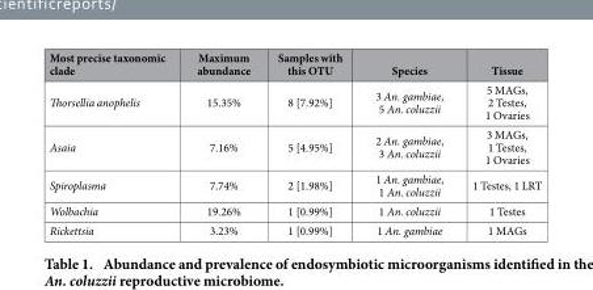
<table><thead><tr><td>Most precise taxonomic clade</td><td>Maximum abundance</td><td>Samples with this OTU</td><td>Species</td><td>Tissue</td></tr></thead><tbody><tr><td>Thorsellia anophelis</td><td>15.35%</td><td>8 [7.92%]</td><td>3 An. gambiae, 5 An. coluzzii</td><td>5 MAGs, 2 Testes, 1 Ovaries</td></tr><tr><td>Asaia</td><td>7.16%</td><td>5 [4.95%]</td><td>2 An. gambiae, 3 An. coluzzii</td><td>3 MAGs, 1 Testes, 1 Ovaries</td></tr><tr><td>Spiroplasma</td><td>7.74%</td><td>2 [1.98%]</td><td>1 An. gambiae, 1 An. coluzzii</td><td>1 Testes, 1 LRT</td></tr><tr><td>Wolbachia</td><td>19.26%</td><td>1 [0.99%]</td><td>1 An. coluzzii</td><td>1 Testes</td></tr><tr><td>Rickettsia</td><td>3.23%</td><td>1 [0.99%]</td><td>1 An. gambiae</td><td>1 MAGs</td></tr></tbody></table>